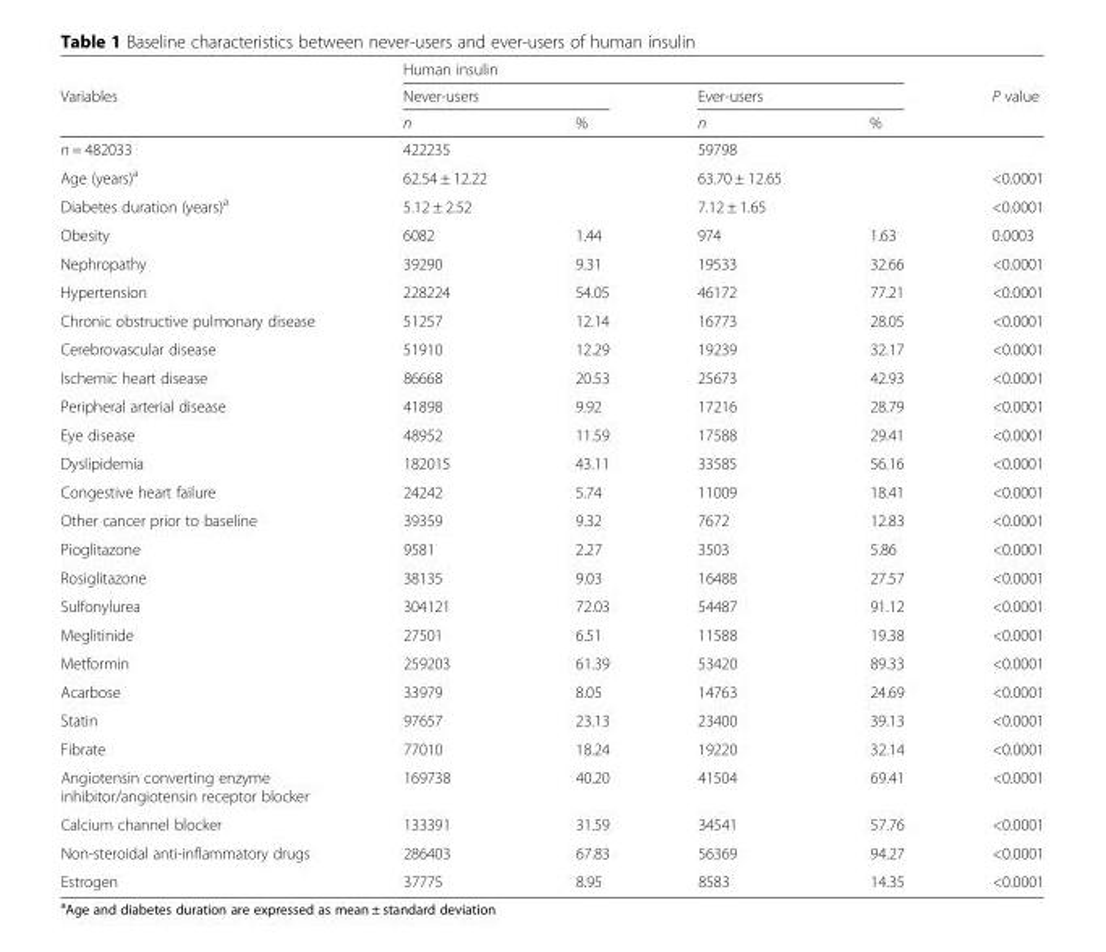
<table><thead><tr><td rowspan="3">Variables</td><td colspan="4">Human insulin</td><td rowspan="3">P value</td></tr><tr><td colspan="2">Never-users</td><td colspan="2">Ever-users</td></tr><tr><td>n</td><td>%</td><td>n</td><td>%</td></tr></thead><tbody><tr><td>n = 482033</td><td>422235</td><td></td><td>59798</td><td></td><td></td></tr><tr><td>Age (years)<sup>a</sup></td><td>62.54 ± 12.22</td><td></td><td>63.70 ± 12.65</td><td></td><td>&lt;0.0001</td></tr><tr><td>Diabetes duration (years)<sup>a</sup></td><td>5.12 ± 2.52</td><td></td><td>7.12 ± 1.65</td><td></td><td>&lt;0.0001</td></tr><tr><td>Obesity</td><td>6082</td><td>1.44</td><td>974</td><td>1.63</td><td>0.0003</td></tr><tr><td>Nephropathy</td><td>39290</td><td>9.31</td><td>19533</td><td>32.66</td><td>&lt;0.0001</td></tr><tr><td>Hypertension</td><td>228224</td><td>54.05</td><td>46172</td><td>77.21</td><td>&lt;0.0001</td></tr><tr><td>Chronic obstructive pulmonary disease</td><td>51257</td><td>12.14</td><td>16773</td><td>28.05</td><td>&lt;0.0001</td></tr><tr><td>Cerebrovascular disease</td><td>51910</td><td>12.29</td><td>19239</td><td>32.17</td><td>&lt;0.0001</td></tr><tr><td>Ischemic heart disease</td><td>86668</td><td>20.53</td><td>25673</td><td>42.93</td><td>&lt;0.0001</td></tr><tr><td>Peripheral arterial disease</td><td>41898</td><td>9.92</td><td>17216</td><td>28.79</td><td>&lt;0.0001</td></tr><tr><td>Eye disease</td><td>48952</td><td>11.59</td><td>17588</td><td>29.41</td><td>&lt;0.0001</td></tr><tr><td>Dyslipidemia</td><td>182015</td><td>43.11</td><td>33585</td><td>56.16</td><td>&lt;0.0001</td></tr><tr><td>Congestive heart failure</td><td>24242</td><td>5.74</td><td>11009</td><td>18.41</td><td>&lt;0.0001</td></tr><tr><td>Other cancer prior to baseline</td><td>39359</td><td>9.32</td><td>7672</td><td>12.83</td><td>&lt;0.0001</td></tr><tr><td>Pioglitazone</td><td>9581</td><td>2.27</td><td>3503</td><td>5.86</td><td>&lt;0.0001</td></tr><tr><td>Rosiglitazone</td><td>38135</td><td>9.03</td><td>16488</td><td>27.57</td><td>&lt;0.0001</td></tr><tr><td>Sulfonylurea</td><td>304121</td><td>72.03</td><td>54487</td><td>91.12</td><td>&lt;0.0001</td></tr><tr><td>Meglitinide</td><td>27501</td><td>6.51</td><td>11588</td><td>19.38</td><td>&lt;0.0001</td></tr><tr><td>Metformin</td><td>259203</td><td>61.39</td><td>53420</td><td>89.33</td><td>&lt;0.0001</td></tr><tr><td>Acarbose</td><td>33979</td><td>8.05</td><td>14763</td><td>24.69</td><td>&lt;0.0001</td></tr><tr><td>Statin</td><td>97657</td><td>23.13</td><td>23400</td><td>39.13</td><td>&lt;0.0001</td></tr><tr><td>Fibrate</td><td>77010</td><td>18.24</td><td>19220</td><td>32.14</td><td>&lt;0.0001</td></tr><tr><td>Angiotensin converting enzyme inhibitor/angiotensin receptor blocker</td><td>169738</td><td>40.20</td><td>41504</td><td>69.41</td><td>&lt;0.0001</td></tr><tr><td>Calcium channel blocker</td><td>133391</td><td>31.59</td><td>34541</td><td>57.76</td><td>&lt;0.0001</td></tr><tr><td>Non-steroidal anti-inflammatory drugs</td><td>286403</td><td>67.83</td><td>56369</td><td>94.27</td><td>&lt;0.0001</td></tr><tr><td>Estrogen</td><td>37775</td><td>8.95</td><td>8583</td><td>14.35</td><td>&lt;0.0001</td></tr></tbody></table>